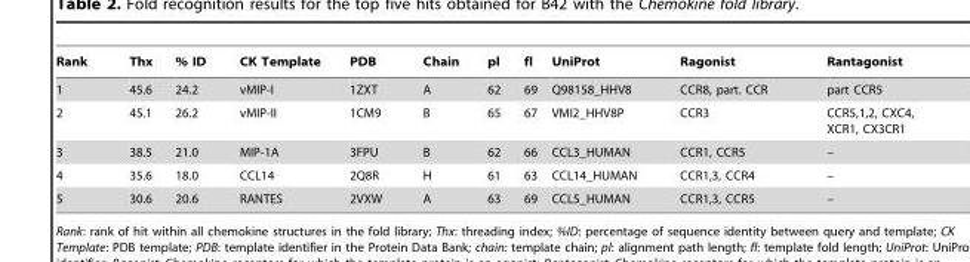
<table><thead><tr><td>Rank</td><td>Thx</td><td>% ID</td><td>CK Template</td><td>PDB</td><td>Chain</td><td>pl</td><td>fl</td><td>UniProt</td><td>Ragonist</td><td>Rantagonist</td></tr></thead><tbody><tr><td>1</td><td>45.6</td><td>24.2</td><td>vMIP-I</td><td>1ZXT</td><td>A</td><td>62</td><td>69</td><td>Q98158_HHV8</td><td>CCR8, part. CCR</td><td>part CCR5</td></tr><tr><td>2</td><td>45.1</td><td>26.2</td><td>vMIP-II</td><td>1CM9</td><td>B</td><td>65</td><td>67</td><td>VMI2_HHV8P</td><td>CCR3</td><td>CCR5,1,2, CXC4, XCR1, CX3CR1</td></tr><tr><td>3</td><td>38.5</td><td>21.0</td><td>MIP-1A</td><td>3FPU</td><td>B</td><td>62</td><td>66</td><td>CCL3_HUMAN</td><td>CCR1, CCR5</td><td>–</td></tr><tr><td>4</td><td>35.6</td><td>18.0</td><td>CCL14</td><td>2Q8R</td><td>H</td><td>61</td><td>63</td><td>CCL14_HUMAN</td><td>CCR1,3, CCR4</td><td>–</td></tr><tr><td>5</td><td>30.6</td><td>20.6</td><td>RANTES</td><td>2VXW</td><td>A</td><td>63</td><td>69</td><td>CCL5_HUMAN</td><td>CCR1,3, CCR5</td><td>–</td></tr></tbody></table>